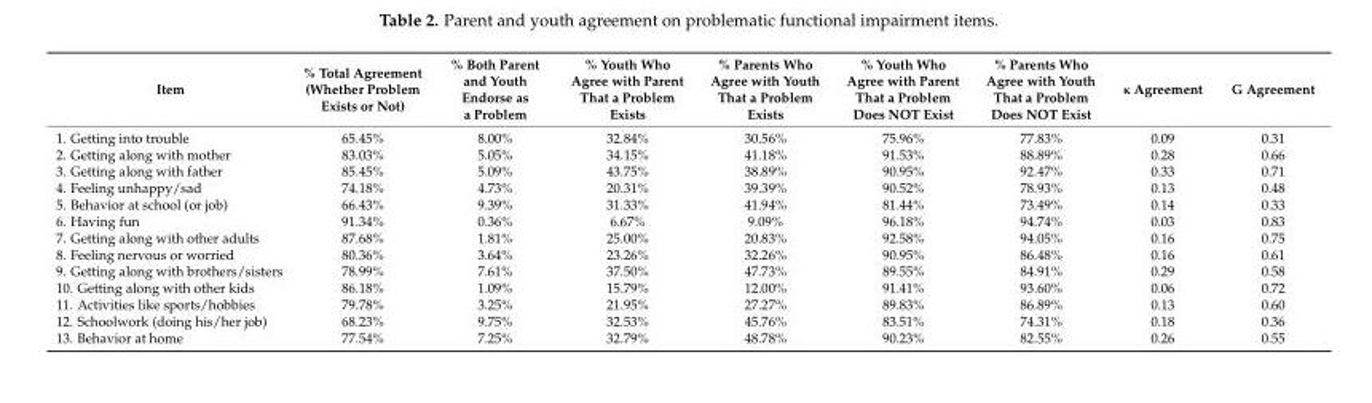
<table><thead><tr><td>Item</td><td>% Total Agreement (Whether Problem Exists or Not)</td><td>% Both Parent and Youth Endorse as a Problem</td><td>% Youth Who Agree with Parent That a Problem Exists</td><td>% Parents Who Agree with Youth That a Problem Exists</td><td>% Youth Who Agree with Parent That a Problem Does NOT Exist</td><td>% Parents Who Agree with Youth That a Problem Does NOT Exist</td><td>κ Agreement</td><td>G Agreement</td></tr></thead><tbody><tr><td>1. Getting into trouble</td><td>65.45%</td><td>8.00%</td><td>32.84%</td><td>30.56%</td><td>75.96%</td><td>77.83%</td><td>0.09</td><td>0.31</td></tr><tr><td>2. Getting along with mother</td><td>83.03%</td><td>5.05%</td><td>34.15%</td><td>41.18%</td><td>91.53%</td><td>88.89%</td><td>0.28</td><td>0.66</td></tr><tr><td>3. Getting along with father</td><td>85.45%</td><td>5.09%</td><td>43.75%</td><td>38.89%</td><td>90.95%</td><td>92.47%</td><td>0.33</td><td>0.71</td></tr><tr><td>4. Feeling unhappy/sad</td><td>74.18%</td><td>4.73%</td><td>20.31%</td><td>39.39%</td><td>90.52%</td><td>78.93%</td><td>0.13</td><td>0.48</td></tr><tr><td>5. Behavior at school (or job)</td><td>66.43%</td><td>9.39%</td><td>31.33%</td><td>41.94%</td><td>81.44%</td><td>73.49%</td><td>0.14</td><td>0.33</td></tr><tr><td>6. Having fun</td><td>91.34%</td><td>0.36%</td><td>6.67%</td><td>9.09%</td><td>96.18%</td><td>94.74%</td><td>0.03</td><td>0.83</td></tr><tr><td>7. Getting along with other adults</td><td>87.68%</td><td>1.81%</td><td>25.00%</td><td>20.83%</td><td>92.58%</td><td>94.05%</td><td>0.16</td><td>0.75</td></tr><tr><td>8. Feeling nervous or worried</td><td>80.36%</td><td>3.64%</td><td>23.26%</td><td>32.26%</td><td>90.95%</td><td>86.48%</td><td>0.16</td><td>0.61</td></tr><tr><td>9. Getting along with brothers/sisters</td><td>78.99%</td><td>7.61%</td><td>37.50%</td><td>47.73%</td><td>89.55%</td><td>84.91%</td><td>0.29</td><td>0.58</td></tr><tr><td>10. Getting along with other kids</td><td>86.18%</td><td>1.09%</td><td>15.79%</td><td>12.00%</td><td>91.41%</td><td>93.60%</td><td>0.06</td><td>0.72</td></tr><tr><td>11. Activities like sports/hobbies</td><td>79.78%</td><td>3.25%</td><td>21.95%</td><td>27.27%</td><td>89.83%</td><td>86.89%</td><td>0.13</td><td>0.60</td></tr><tr><td>12. Schoolwork (doing his/her job)</td><td>68.23%</td><td>9.75%</td><td>32.53%</td><td>45.76%</td><td>83.51%</td><td>74.31%</td><td>0.18</td><td>0.36</td></tr><tr><td>13. Behavior at home</td><td>77.54%</td><td>7.25%</td><td>32.79%</td><td>48.78%</td><td>90.23%</td><td>82.55%</td><td>0.26</td><td>0.55</td></tr></tbody></table>